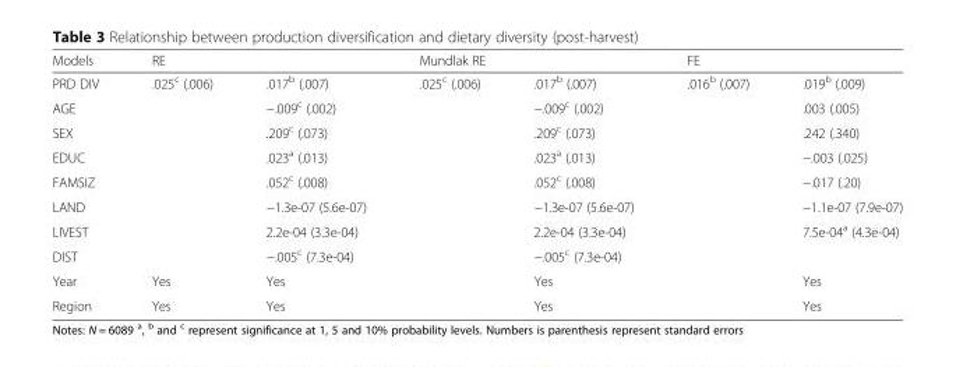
<table><thead><tr><td rowspan="2">Models PRD DIV</td><td colspan="2">RE</td><td colspan="2">Mundlak RE</td><td colspan="2">FE</td></tr><tr><td>.025<sup>c</sup> (.006)</td><td>.017<sup>b</sup> (.007)</td><td>.025<sup>c</sup> (.006)</td><td>.017<sup>b</sup> (.007)</td><td>.016<sup>b</sup> (.007)</td><td>.019<sup>b</sup> (.009)</td></tr></thead><tbody><tr><td>AGE</td><td></td><td>−.009<sup>c</sup> (.002)</td><td></td><td>−.009<sup>c</sup> (.002)</td><td></td><td>.003 (.005)</td></tr><tr><td>SEX</td><td></td><td>.209<sup>c</sup> (.073)</td><td></td><td>.209<sup>c</sup> (.073)</td><td></td><td>.242 (.340)</td></tr><tr><td>EDUC</td><td></td><td>.023<sup>a</sup> (.013)</td><td></td><td>.023<sup>a</sup> (.013)</td><td></td><td>−.003 (.025)</td></tr><tr><td>FAMSIZ</td><td></td><td>.052<sup>c</sup> (.008)</td><td></td><td>.052<sup>c</sup> (.008)</td><td></td><td>−.017 (.20)</td></tr><tr><td>LAND</td><td></td><td>−1.3e-07 (5.6e-07)</td><td></td><td>−1.3e-07 (5.6e-07)</td><td></td><td>−1.1e-07 (7.9e-07)</td></tr><tr><td>LIVEST</td><td></td><td>2.2e-04 (3.3e-04)</td><td></td><td>2.2e-04 (3.3e-04)</td><td></td><td>7.5e-04<sup>a</sup> (4.3e-04)</td></tr><tr><td>DIST</td><td></td><td>−.005<sup>c</sup> (7.3e-04)</td><td></td><td>−.005<sup>c</sup> (7.3e-04)</td><td></td><td></td></tr><tr><td>Year</td><td>Yes</td><td>Yes</td><td></td><td>Yes</td><td></td><td>Yes</td></tr><tr><td>Region</td><td>Yes</td><td>Yes</td><td></td><td>Yes</td><td></td><td>Yes</td></tr></tbody></table>